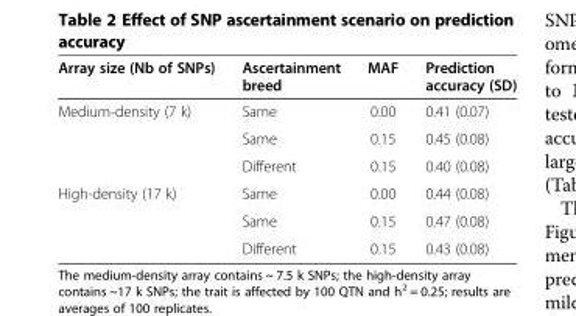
<table><thead><tr><td>Array size (Nb of SNPs)</td><td>Ascertainment breed</td><td>MAF</td><td>Prediction accuracy (SD)</td></tr></thead><tbody><tr><td rowspan="3">Medium-density (7 k)</td><td>Same</td><td>0.00</td><td>0.41 (0.07)</td></tr><tr><td>Same</td><td>0.15</td><td>0.45 (0.08)</td></tr><tr><td>Different</td><td>0.15</td><td>0.40 (0.08)</td></tr><tr><td rowspan="3">High-density (17 k)</td><td>Same</td><td>0.00</td><td>0.44 (0.08)</td></tr><tr><td>Same</td><td>0.15</td><td>0.47 (0.08)</td></tr><tr><td>Different</td><td>0.15</td><td>0.43 (0.08)</td></tr></tbody></table>